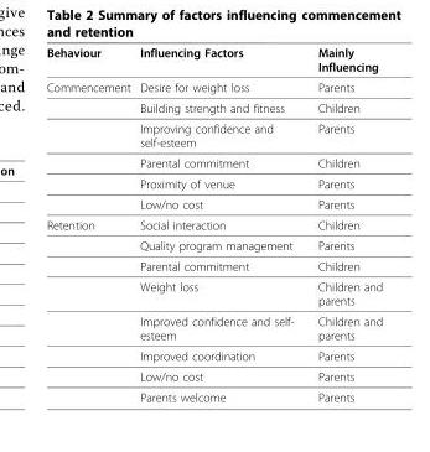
<table><thead><tr><td>Behaviour</td><td>Influencing Factors</td><td>Mainly Influencing</td></tr></thead><tbody><tr><td rowspan="6">Commencement</td><td>Desire for weight loss</td><td>Parents</td></tr><tr><td>Building strength and fitness</td><td>Children</td></tr><tr><td>Improving confidence and self-esteem</td><td>Parents</td></tr><tr><td>Parental commitment</td><td>Children</td></tr><tr><td>Proximity of venue</td><td>Parents</td></tr><tr><td>Low/no cost</td><td>Parents</td></tr><tr><td rowspan="8">Retention</td><td>Social interaction</td><td>Children</td></tr><tr><td>Quality program management</td><td>Parents</td></tr><tr><td>Parental commitment</td><td>Children</td></tr><tr><td>Weight loss</td><td>Children and parents</td></tr><tr><td>Improved confidence and self- esteem</td><td>Children and parents</td></tr><tr><td>Improved coordination</td><td>Parents</td></tr><tr><td>Low/no cost</td><td>Parents</td></tr><tr><td>Parents welcome</td><td>Parents</td></tr></tbody></table>